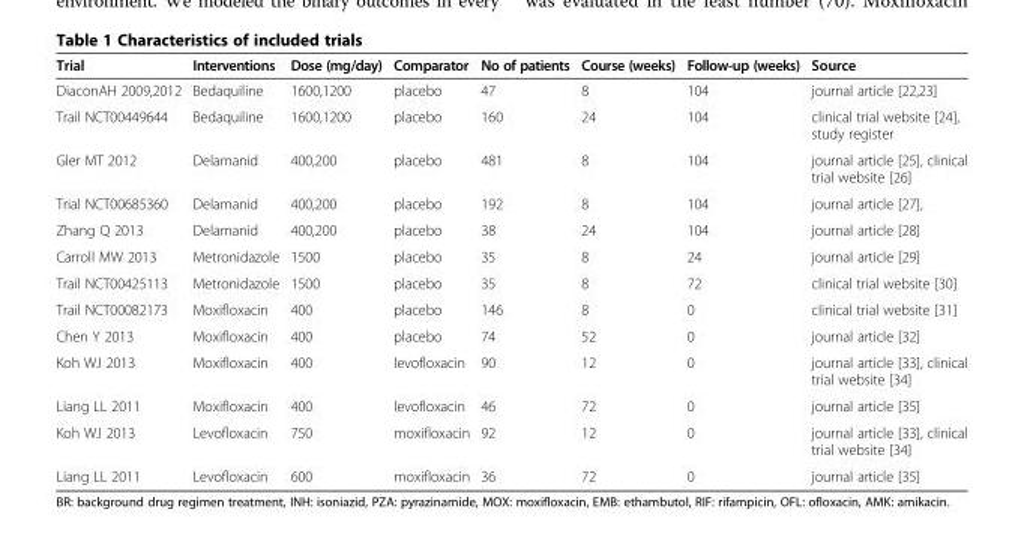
<table><thead><tr><td>Trial</td><td>Interventions</td><td>Dose (mg/day)</td><td>Comparator</td><td>No of patients</td><td>Course (weeks)</td><td>Follow-up (weeks)</td><td>Source</td></tr></thead><tbody><tr><td>DiaconAH 2009,2012</td><td>Bedaquiline</td><td>1600,1200</td><td>placebo</td><td>47</td><td>8</td><td>104</td><td>journal article [22,23]</td></tr><tr><td>Trail NCT00449644</td><td>Bedaquiline</td><td>1600,1200</td><td>placebo</td><td>160</td><td>24</td><td>104</td><td>clinical trial website [24], study register</td></tr><tr><td>Gler MT 2012</td><td>Delamanid</td><td>400,200</td><td>placebo</td><td>481</td><td>8</td><td>104</td><td>journal article [25], clinical trial website [26]</td></tr><tr><td>Trial NCT00685360</td><td>Delamanid</td><td>400,200</td><td>placebo</td><td>192</td><td>8</td><td>104</td><td>journal article [27],</td></tr><tr><td>Zhang Q 2013</td><td>Delamanid</td><td>400,200</td><td>placebo</td><td>38</td><td>24</td><td>104</td><td>journal article [28]</td></tr><tr><td>Carroll MW 2013</td><td>Metronidazole</td><td>1500</td><td>placebo</td><td>35</td><td>8</td><td>24</td><td>journal article [29]</td></tr><tr><td>Trail NCT00425113</td><td>Metronidazole</td><td>1500</td><td>placebo</td><td>35</td><td>8</td><td>72</td><td>clinical trial website [30]</td></tr><tr><td>Trail NCT00082173</td><td>Moxifloxacin</td><td>400</td><td>placebo</td><td>146</td><td>8</td><td>0</td><td>clinical trial website [31]</td></tr><tr><td>Chen Y 2013</td><td>Moxifloxacin</td><td>400</td><td>placebo</td><td>74</td><td>52</td><td>0</td><td>journal article [32]</td></tr><tr><td>Koh WJ 2013</td><td>Moxifloxacin</td><td>400</td><td>levofloxacin</td><td>90</td><td>12</td><td>0</td><td>journal article [33], clinical trial website [34]</td></tr><tr><td>Liang LL 2011</td><td>Moxifloxacin</td><td>400</td><td>levofloxacin</td><td>46</td><td>72</td><td>0</td><td>journal article [35]</td></tr><tr><td>Koh WJ 2013</td><td>Levofloxacin</td><td>750</td><td>moxifloxacin</td><td>92</td><td>12</td><td>0</td><td>journal article [33], clinical trial website [34]</td></tr><tr><td>Liang LL 2011</td><td>Levofloxacin</td><td>600</td><td>moxifloxacin</td><td>36</td><td>72</td><td>0</td><td>journal article [35]</td></tr></tbody></table>